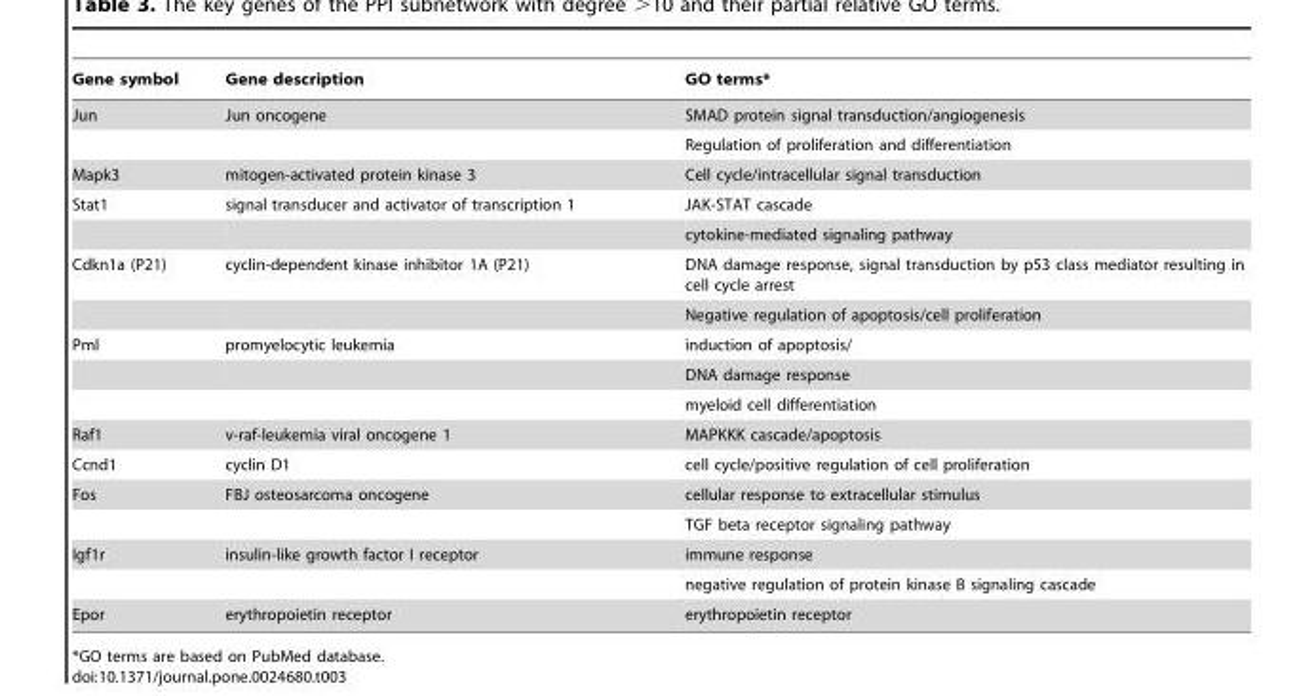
<table><thead><tr><td>Gene symbol</td><td>Gene description</td><td>GO terms*</td></tr></thead><tbody><tr><td rowspan="2">Jun</td><td>Jun oncogene</td><td>SMAD protein signal transduction/angiogenesis</td></tr><tr><td></td><td>Regulation of proliferation and differentiation</td></tr><tr><td>Mapk3</td><td>mitogen-activated protein kinase 3</td><td>Cell cycle/intracellular signal transduction</td></tr><tr><td rowspan="2">Stat1</td><td>signal transducer and activator of transcription 1</td><td>JAK-STAT cascade</td></tr><tr><td></td><td>cytokine-mediated signaling pathway</td></tr><tr><td rowspan="2">Cdkn1a (P21)</td><td>cyclin-dependent kinase inhibitor 1A (P21)</td><td>DNA damage response, signal transduction by p53 class mediator resulting in cell cycle arrest</td></tr><tr><td></td><td>Negative regulation of apoptosis/cell proliferation</td></tr><tr><td rowspan="3">Pml</td><td>promyelocytic leukemia</td><td>induction of apoptosis/</td></tr><tr><td></td><td>DNA damage response</td></tr><tr><td></td><td>myeloid cell differentiation</td></tr><tr><td>Raf1</td><td>v-raf-leukemia viral oncogene 1</td><td>MAPKKK cascade/apoptosis</td></tr><tr><td>Ccnd1</td><td>cyclin D1</td><td>cell cycle/positive regulation of cell proliferation</td></tr><tr><td rowspan="2">Fos</td><td>FBJ osteosarcoma oncogene</td><td>cellular response to extracellular stimulus</td></tr><tr><td></td><td>TGF beta receptor signaling pathway</td></tr><tr><td rowspan="2">Igf1r</td><td>insulin-like growth factor I receptor</td><td>immune response</td></tr><tr><td></td><td>negative regulation of protein kinase B signaling cascade</td></tr><tr><td>Epor</td><td>erythropoietin receptor</td><td>erythropoietin receptor</td></tr></tbody></table>